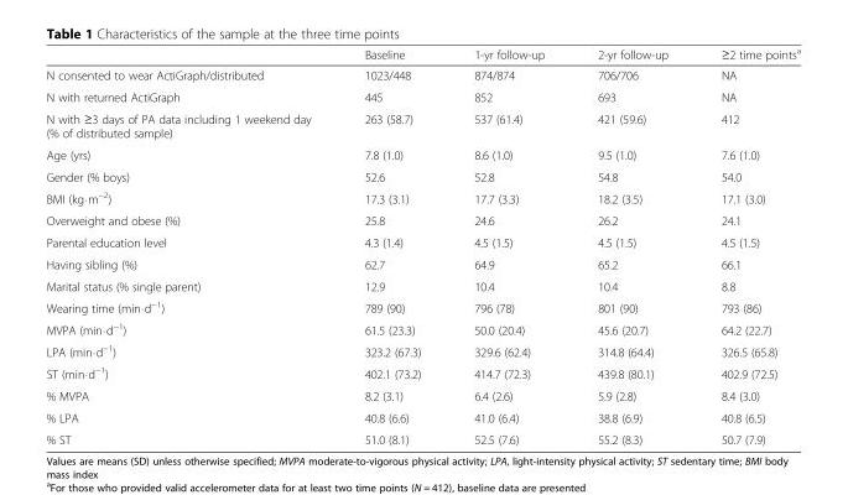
<table><thead><tr><td></td><td>Baseline</td><td>1-yr follow-up</td><td>2-yr follow-up</td><td>≥2 time points<sup>a</sup></td></tr></thead><tbody><tr><td>N consented to wear ActiGraph/distributed</td><td>1023/448</td><td>874/874</td><td>706/706</td><td>NA</td></tr><tr><td>N with returned ActiGraph</td><td>445</td><td>852</td><td>693</td><td>NA</td></tr><tr><td>N with ≥3 days of PA data including 1 weekend day (% of distributed sample)</td><td>263 (58.7)</td><td>537 (61.4)</td><td>421 (59.6)</td><td>412</td></tr><tr><td>Age (yrs)</td><td>7.8 (1.0)</td><td>8.6 (1.0)</td><td>9.5 (1.0)</td><td>7.6 (1.0)</td></tr><tr><td>Gender (% boys)</td><td>52.6</td><td>52.8</td><td>54.8</td><td>54.0</td></tr><tr><td>BMI (kg⋅m<sup>−2</sup>)</td><td>17.3 (3.1)</td><td>17.7 (3.3)</td><td>18.2 (3.5)</td><td>17.1 (3.0)</td></tr><tr><td>Overweight and obese (%)</td><td>25.8</td><td>24.6</td><td>26.2</td><td>24.1</td></tr><tr><td>Parental education level</td><td>4.3 (1.4)</td><td>4.5 (1.5)</td><td>4.5 (1.5)</td><td>4.5 (1.5)</td></tr><tr><td>Having sibling (%)</td><td>62.7</td><td>64.9</td><td>65.2</td><td>66.1</td></tr><tr><td>Marital status (% single parent)</td><td>12.9</td><td>10.4</td><td>10.4</td><td>8.8</td></tr><tr><td>Wearing time (min⋅d<sup>−1</sup>)</td><td>789 (90)</td><td>796 (78)</td><td>801 (90)</td><td>793 (86)</td></tr><tr><td>MVPA (min⋅d<sup>−1</sup>)</td><td>61.5 (23.3)</td><td>50.0 (20.4)</td><td>45.6 (20.7)</td><td>64.2 (22.7)</td></tr><tr><td>LPA (min⋅d<sup>−1</sup>)</td><td>323.2 (67.3)</td><td>329.6 (62.4)</td><td>314.8 (64.4)</td><td>326.5 (65.8)</td></tr><tr><td>ST (min⋅d<sup>−1</sup>)</td><td>402.1 (73.2)</td><td>414.7 (72.3)</td><td>439.8 (80.1)</td><td>402.9 (72.5)</td></tr><tr><td>% MVPA</td><td>8.2 (3.1)</td><td>6.4 (2.6)</td><td>5.9 (2.8)</td><td>8.4 (3.0)</td></tr><tr><td>% LPA</td><td>40.8 (6.6)</td><td>41.0 (6.4)</td><td>38.8 (6.9)</td><td>40.8 (6.5)</td></tr><tr><td>% ST</td><td>51.0 (8.1)</td><td>52.5 (7.6)</td><td>55.2 (8.3)</td><td>50.7 (7.9)</td></tr></tbody></table>